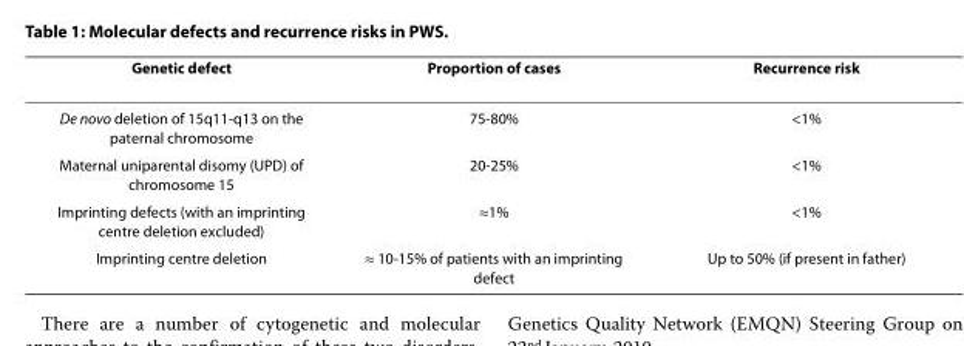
<table><thead><tr><td>Genetic defect</td><td>Proportion of cases</td><td>Recurrence risk</td></tr></thead><tbody><tr><td>De novo deletion of 15q11-q13 on the paternal chromosome</td><td>75-80%</td><td>&lt;1%</td></tr><tr><td>Maternal uniparental disomy (UPD) of chromosome 15</td><td>20-25%</td><td>&lt;1%</td></tr><tr><td>Imprinting defects (with an imprinting centre deletion excluded)</td><td>≈1%</td><td>&lt;1%</td></tr><tr><td>Imprinting centre deletion</td><td>≈ 10-15% of patients with an imprinting defect</td><td>Up to 50% (if present in father)</td></tr></tbody></table>